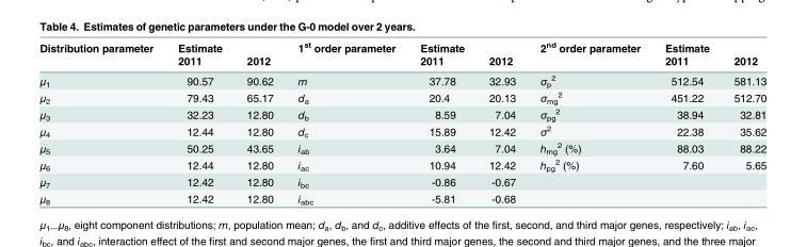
<table><thead><tr><td rowspan="2">Distribution parameter</td><td rowspan="2">Estimate 2011</td><td rowspan="2">2012</td><td rowspan="2">1<sup>st</sup> order parameter</td><td rowspan="2">Estimate 2011</td><td rowspan="2">2012</td><td rowspan="2">2<sup>nd</sup> order parameter</td><td rowspan="2">Estimate 2011</td><td rowspan="2">2012</td></tr><tr></tr></thead><tbody><tr><td>μ<sub>1</sub></td><td>90.57</td><td>90.62</td><td>m</td><td>37.78</td><td>32.93</td><td>σ<sub>p</sub> <sup>2</sup></td><td>512.54</td><td>581.13</td></tr><tr><td>μ<sub>2</sub></td><td>79.43</td><td>65.17</td><td>d<sub>a</sub></td><td>20.4</td><td>20.13</td><td>σ<sub>mg</sub> <sup>2</sup></td><td>451.22</td><td>512.70</td></tr><tr><td>μ<sub>3</sub></td><td>32.23</td><td>12.80</td><td>d<sub>b</sub></td><td>8.59</td><td>7.04</td><td>σ<sub>pg</sub> <sup>2</sup></td><td>38.94</td><td>32.81</td></tr><tr><td>μ<sub>4</sub></td><td>12.44</td><td>12.80</td><td>d<sub>c</sub></td><td>15.89</td><td>12.42</td><td>σ<sup>2</sup></td><td>22.38</td><td>35.62</td></tr><tr><td>μ<sub>5</sub></td><td>50.25</td><td>43.65</td><td>i<sub>ab</sub></td><td>3.64</td><td>7.04</td><td>h<sub>mg</sub> <sup>2</sup> (%)</td><td>88.03</td><td>88.22</td></tr><tr><td>μ<sub>6</sub></td><td>12.44</td><td>12.80</td><td>i<sub>ac</sub></td><td>10.94</td><td>12.42</td><td>h<sub>pg</sub> <sup>2</sup> (%)</td><td>7.60</td><td>5.65</td></tr><tr><td>μ<sub>7</sub></td><td>12.42</td><td>12.80</td><td>i<sub>bc</sub></td><td>-0.86</td><td>-0.67</td><td></td><td></td><td></td></tr><tr><td>μ<sub>8</sub></td><td>12.42</td><td>12.80</td><td>i<sub>abc</sub></td><td>-5.81</td><td>-0.68</td><td></td><td></td><td></td></tr></tbody></table>